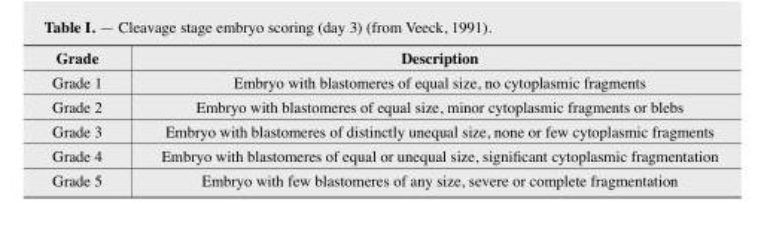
<table><thead><tr><td>Grade</td><td>Description</td></tr></thead><tbody><tr><td>Grade 1</td><td>Embryo with blastomeres of equal size, no cytoplasmic fragments</td></tr><tr><td>Grade 2</td><td>Embryo with blastomeres of equal size, minor cytoplasmic fragments or blebs</td></tr><tr><td>Grade 3</td><td>Embryo with blastomeres of distinctly unequal size, none or few cytoplasmic fragments</td></tr><tr><td>Grade 4</td><td>Embryo with blastomeres of equal or unequal size, significant cytoplasmic fragmentation</td></tr><tr><td>Grade 5</td><td>Embryo with few blastomeres of any size, severe or complete fragmentation</td></tr></tbody></table>